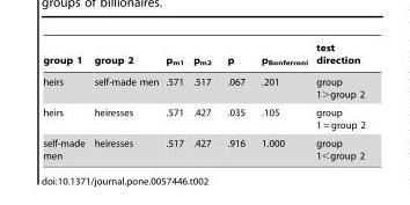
<table><thead><tr><td>group 1</td><td>group 2</td><td>p<sub>m1</sub></td><td>p<sub>m2</sub></td><td>p</td><td>p<sub>Bonferroni</sub></td><td>test direction</td></tr></thead><tbody><tr><td>heirs</td><td>self-made men</td><td>.571</td><td>.517</td><td>.067</td><td>.201</td><td>group 1&gt;group 2</td></tr><tr><td>heirs</td><td>heiresses</td><td>.571</td><td>.427</td><td>.035</td><td>.105</td><td>group 1 = group 2</td></tr><tr><td>self-made men</td><td>heiresses</td><td>.517</td><td>.427</td><td>.916</td><td>1.000</td><td>group 1&lt;group 2</td></tr></tbody></table>